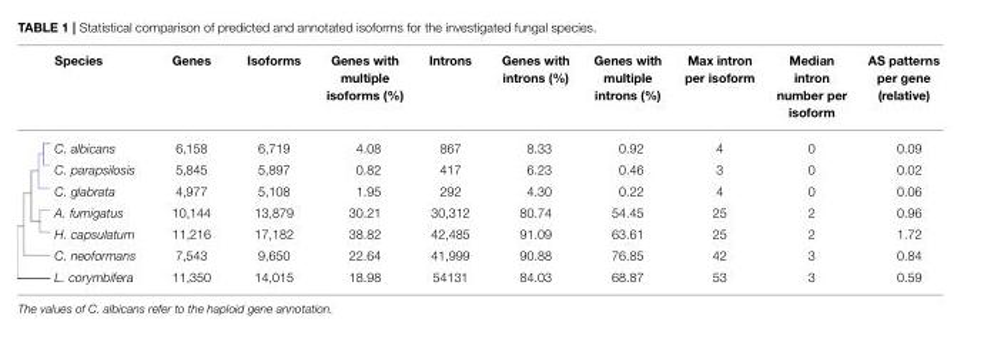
<table><thead><tr><td>Species</td><td>Genes</td><td>Isoforms</td><td>Genes with multiple isoforms (%)</td><td>Introns</td><td>Genes with introns (%)</td><td>Genes with multiple introns (%)</td><td>Max intron per isoform</td><td>Median intron number per isoform</td><td>AS patterns per gene (relative)</td></tr></thead><tbody><tr><td>C. albicans</td><td>6,158</td><td>6,719</td><td>4.08</td><td>867</td><td>8.33</td><td>0.92</td><td>4</td><td>0</td><td>0.09</td></tr><tr><td>C. parapsilosis</td><td>5,845</td><td>5,897</td><td>0.82</td><td>417</td><td>6.23</td><td>0.46</td><td>3</td><td>0</td><td>0.02</td></tr><tr><td>C. glabrata</td><td>4,977</td><td>5,108</td><td>1.95</td><td>292</td><td>4.30</td><td>0.22</td><td>4</td><td>0</td><td>0.06</td></tr><tr><td>A. fumigatus</td><td>10,144</td><td>13,879</td><td>30.21</td><td>30,312</td><td>80.74</td><td>54.45</td><td>25</td><td>2</td><td>0.96</td></tr><tr><td>H. capsulatum</td><td>11,216</td><td>17,182</td><td>38.82</td><td>42,485</td><td>91.09</td><td>63.61</td><td>25</td><td>2</td><td>1.72</td></tr><tr><td>C. neoformans</td><td>7,543</td><td>9,650</td><td>22.64</td><td>41,999</td><td>90.88</td><td>76.85</td><td>42</td><td>3</td><td>0.84</td></tr><tr><td>L. corymbifera</td><td>11,350</td><td>14,015</td><td>18.98</td><td>54131</td><td>84.03</td><td>68.87</td><td>53</td><td>3</td><td>0.59</td></tr></tbody></table>